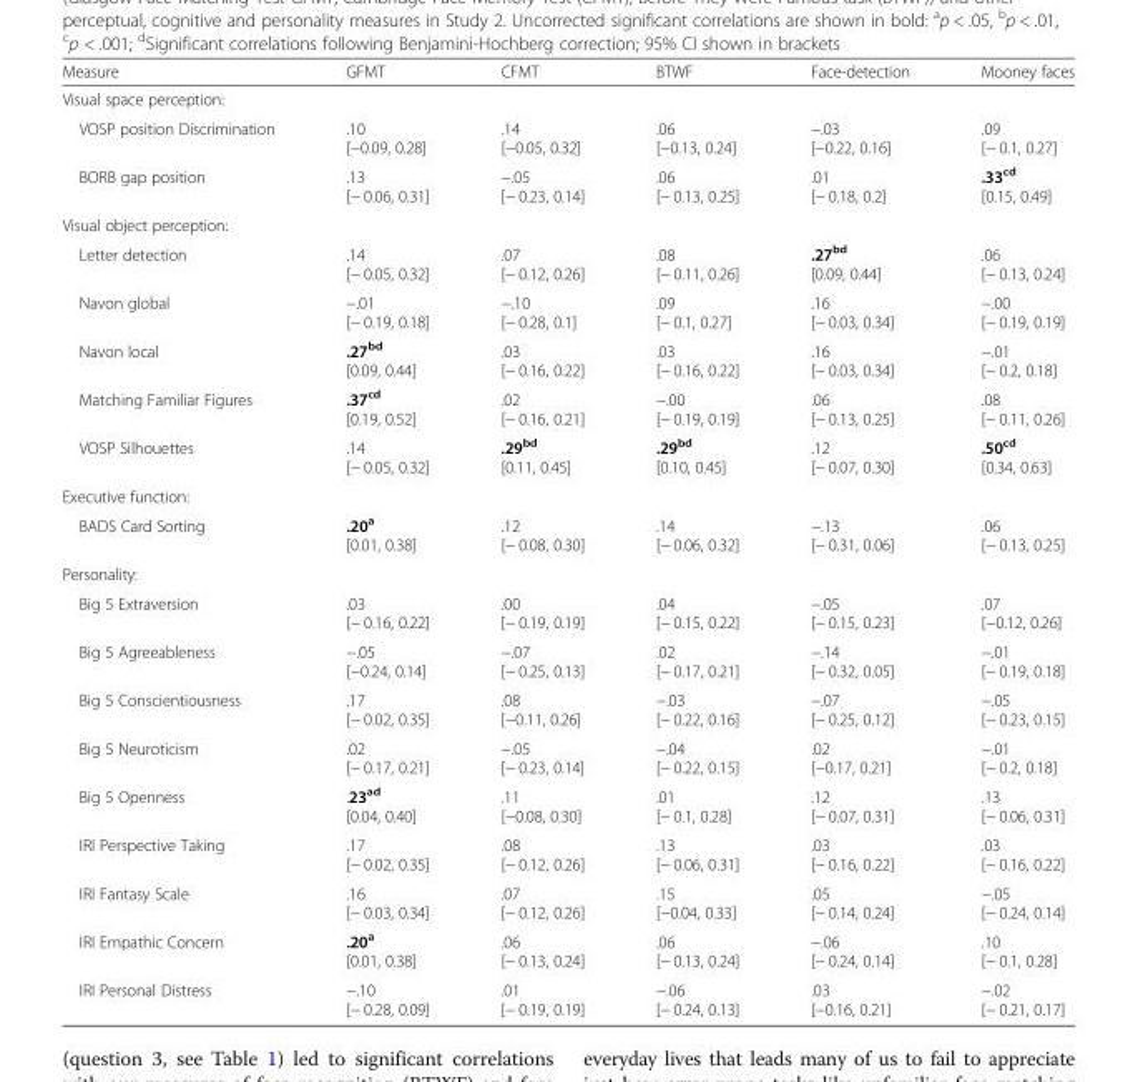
<table><thead><tr><td>Measure</td><td>GFMT</td><td>CFMT</td><td>BTWF</td><td>Face-detection</td><td>Mooney faces</td></tr></thead><tbody><tr><td colspan="6">Visual space perception:</td></tr><tr><td>VOSP position Discrimination</td><td>.10 [−0.09, 0.28]</td><td>.14 [−0.05, 0.32]</td><td>.06 [−0.13, 0.24]</td><td>−.03 [−0.22, 0.16]</td><td>.09 [− 0.1, 0.27]</td></tr><tr><td>BORB gap position</td><td>.13 [− 0.06, 0.31]</td><td>−.05 [− 0.23, 0.14]</td><td>.06 [− 0.13, 0.25]</td><td>.01 [− 0.18, 0.2]</td><td>.33<sup>cd</sup> [0.15, 0.49]</td></tr><tr><td colspan="6">Visual object perception:</td></tr><tr><td>Letter detection</td><td>.14 [− 0.05, 0.32]</td><td>.07 [− 0.12, 0.26]</td><td>.08 [− 0.11, 0.26]</td><td>.27<sup>bd</sup> [0.09, 0.44]</td><td>.06 [− 0.13, 0.24]</td></tr><tr><td>Navon global</td><td>−.01 [− 0.19, 0.18]</td><td>−.10 [− 0.28, 0.1]</td><td>.09 [− 0.1, 0.27]</td><td>.16 [− 0.03, 0.34]</td><td>−.00 [− 0.19, 0.19]</td></tr><tr><td>Navon local</td><td>.27<sup>bd</sup> [0.09, 0.44]</td><td>.03 [− 0.16, 0.22]</td><td>.03 [− 0.16, 0.22]</td><td>.16 [− 0.03, 0.34]</td><td>−.01 [− 0.2, 0.18]</td></tr><tr><td>Matching Familiar Figures</td><td>.37<sup>cd</sup> [0.19, 0.52]</td><td>.02 [− 0.16, 0.21]</td><td>−.00 [− 0.19, 0.19]</td><td>.06 [− 0.13, 0.25]</td><td>.08 [− 0.11, 0.26]</td></tr><tr><td>VOSP Silhouettes</td><td>.14 [− 0.05, 0.32]</td><td>.29<sup>bd</sup> [0.11, 0.45]</td><td>.29<sup>bd</sup> [0.10, 0.45]</td><td>.12 [− 0.07, 0.30]</td><td>.50<sup>cd</sup> [0.34, 0.63]</td></tr><tr><td colspan="6">Executive function:</td></tr><tr><td>BADS Card Sorting</td><td>.20<sup>a</sup> [0.01, 0.38]</td><td>.12 [− 0.08, 0.30]</td><td>.14 [− 0.06, 0.32]</td><td>−.13 [− 0.31, 0.06]</td><td>.06 [− 0.13, 0.25]</td></tr><tr><td colspan="6">Personality:</td></tr><tr><td>Big 5 Extraversion</td><td>.03 [− 0.16, 0.22]</td><td>.00 [− 0.19, 0.19]</td><td>.04 [− 0.15, 0.22]</td><td>−.05 [− 0.15, 0.23]</td><td>.07 [−0.12, 0.26]</td></tr><tr><td>Big 5 Agreeableness</td><td>−.05 [−0.24, 0.14]</td><td>−.07 [− 0.25, 0.13]</td><td>.02 [− 0.17, 0.21]</td><td>−.14 [− 0.32, 0.05]</td><td>−.01 [− 0.19, 0.18]</td></tr><tr><td>Big 5 Conscientiousness</td><td>.17 [− 0.02, 0.35]</td><td>.08 [−0.11, 0.26]</td><td>−.03 [− 0.22, 0.16]</td><td>−.07 [− 0.25, 0.12]</td><td>−.05 [− 0.23, 0.15]</td></tr><tr><td>Big 5 Neuroticism</td><td>.02 [− 0.17, 0.21]</td><td>−.05 [− 0.23, 0.14]</td><td>−.04 [− 0.22, 0.15]</td><td>.02 [−0.17, 0.21]</td><td>−.01 [− 0.2, 0.18]</td></tr><tr><td>Big 5 Openness</td><td>.23<sup>ad</sup> [0.04, 0.40]</td><td>.11 [−0.08, 0.30]</td><td>.01 [− 0.1, 0.28]</td><td>.12 [− 0.07, 0.31]</td><td>.13 [− 0.06, 0.31]</td></tr><tr><td>IRI Perspective Taking</td><td>.17 [− 0.02, 0.35]</td><td>.08 [− 0.12, 0.26]</td><td>.13 [− 0.06, 0.31]</td><td>.03 [− 0.16, 0.22]</td><td>.03 [− 0.16, 0.22]</td></tr><tr><td>IRI Fantasy Scale</td><td>.16 [− 0.03, 0.34]</td><td>.07 [− 0.12, 0.26]</td><td>.15 [−0.04, 0.33]</td><td>.05 [− 0.14, 0.24]</td><td>−.05 [− 0.24, 0.14]</td></tr><tr><td>IRI Empathic Concern</td><td>.20<sup>a</sup> [0.01, 0.38]</td><td>.06 [− 0.13, 0.24]</td><td>.06 [− 0.13, 0.24]</td><td>−.06 [− 0.24, 0.14]</td><td>.10 [− 0.1, 0.28]</td></tr><tr><td>IRI Personal Distress</td><td>−.10 [− 0.28, 0.09]</td><td>.01 [− 0.19, 0.19]</td><td>−.06 [− 0.24, 0.13]</td><td>.03 [−0.16, 0.21]</td><td>−.02 [− 0.21, 0.17]</td></tr></tbody></table>